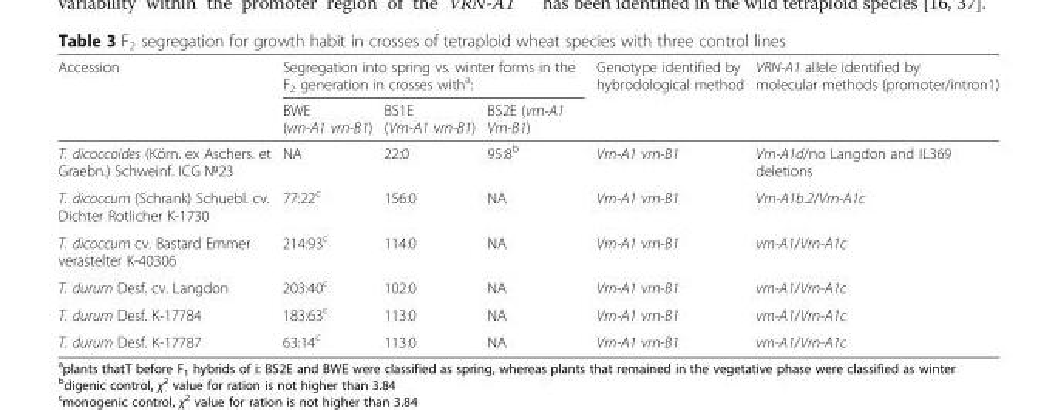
<table><thead><tr><td rowspan="2">Accession</td><td colspan="3">Segregation into spring vs. winter forms in the F<sub>2</sub> generation in crosses with<sup>a</sup>:</td><td rowspan="2">Genotype identified by hybrodological method</td><td rowspan="2">VRN-A1 allele identified by molecular methods (promoter/intron1)</td></tr><tr><td>BWE (vrn-A1 vrn-B1)</td><td>BS1E (Vrn-A1 vrn-B1)</td><td>BS2E (vrn-A1 Vrn-B1)</td></tr></thead><tbody><tr><td>T. dicoccoides (Körn. ex Aschers. et Graebn.) Schweinf. ICG №23</td><td>NA</td><td>22:0</td><td>95:8<sup>b</sup></td><td>Vrn-A1 vrn-B1</td><td>Vrn-A1d/no Langdon and IL369 deletions</td></tr><tr><td>T. dicoccum (Schrank) Schuebl. cv. Dichter Rotlicher K-1730</td><td>77:22<sup>c</sup></td><td>156:0</td><td>NA</td><td>Vrn-A1 vrn-B1</td><td>Vrn-A1b.2/Vrn-A1c</td></tr><tr><td>T. dicoccum cv. Bastard Emmer verastelter K-40306</td><td>214:93<sup>c</sup></td><td>114:0</td><td>NA</td><td>Vrn-A1 vrn-B1</td><td>vrn-A1/Vrn-A1c</td></tr><tr><td>T. durum Desf. cv. Langdon</td><td>203:40<sup>c</sup></td><td>102:0</td><td>NA</td><td>Vrn-A1 vrn-B1</td><td>vrn-A1/Vrn-A1c</td></tr><tr><td>T. durum Desf. K-17784</td><td>183:63<sup>c</sup></td><td>113:0</td><td>NA</td><td>Vrn-A1 vrn-B1</td><td>vrn-A1/Vrn-A1c</td></tr><tr><td>T. durum Desf. K-17787</td><td>63:14<sup>c</sup></td><td>113:0</td><td>NA</td><td>Vrn-A1 vrn-B1</td><td>vrn-A1/Vrn-A1c</td></tr></tbody></table>